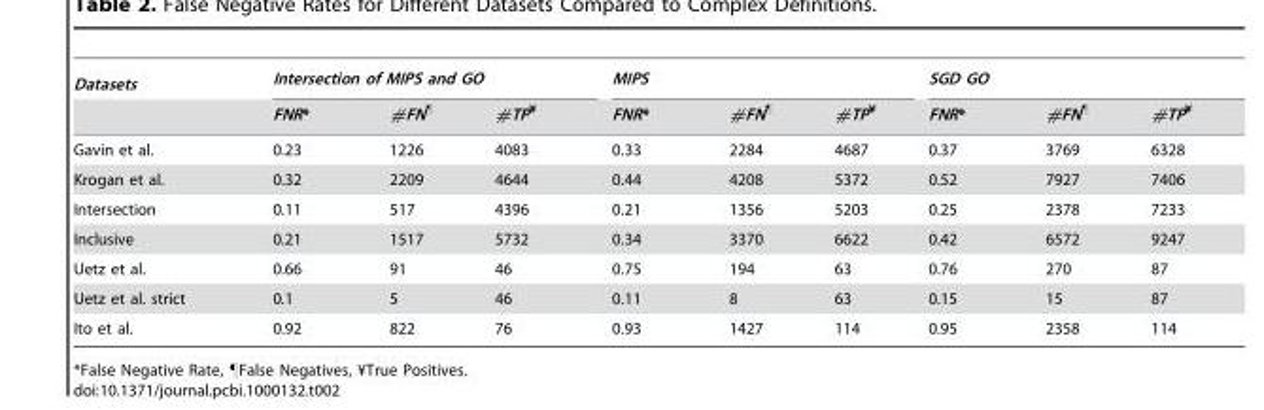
<table><thead><tr><td rowspan="2">Datasets</td><td colspan="3">Intersection of MIPS and GO</td><td colspan="3">MIPS</td><td colspan="3">SGD GO</td></tr><tr><td>FNR*</td><td>#FN<sup>¶</sup></td><td>#TP<sup>¥</sup></td><td>FNR*</td><td>#FN<sup>¶</sup></td><td>#TP<sup>¥</sup></td><td>FNR*</td><td>#FN<sup>¶</sup></td><td>#TP<sup>¥</sup></td></tr></thead><tbody><tr><td>Gavin et al.</td><td>0.23</td><td>1226</td><td>4083</td><td>0.33</td><td>2284</td><td>4687</td><td>0.37</td><td>3769</td><td>6328</td></tr><tr><td>Krogan et al.</td><td>0.32</td><td>2209</td><td>4644</td><td>0.44</td><td>4208</td><td>5372</td><td>0.52</td><td>7927</td><td>7406</td></tr><tr><td>Intersection</td><td>0.11</td><td>517</td><td>4396</td><td>0.21</td><td>1356</td><td>5203</td><td>0.25</td><td>2378</td><td>7233</td></tr><tr><td>Inclusive</td><td>0.21</td><td>1517</td><td>5732</td><td>0.34</td><td>3370</td><td>6622</td><td>0.42</td><td>6572</td><td>9247</td></tr><tr><td>Uetz et al.</td><td>0.66</td><td>91</td><td>46</td><td>0.75</td><td>194</td><td>63</td><td>0.76</td><td>270</td><td>87</td></tr><tr><td>Uetz et al. strict</td><td>0.1</td><td>5</td><td>46</td><td>0.11</td><td>8</td><td>63</td><td>0.15</td><td>15</td><td>87</td></tr><tr><td>Ito et al.</td><td>0.92</td><td>822</td><td>76</td><td>0.93</td><td>1427</td><td>114</td><td>0.95</td><td>2358</td><td>114</td></tr></tbody></table>